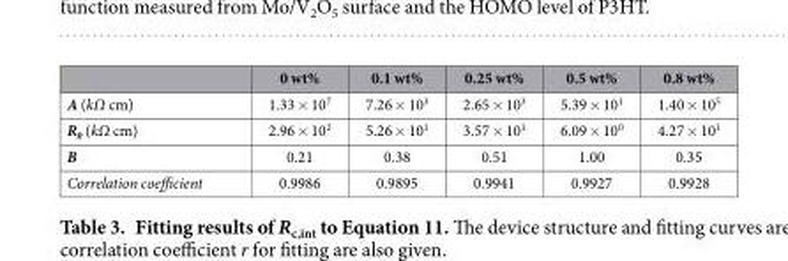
<table><thead><tr><td></td><td>0 wt%</td><td>0.1 wt%</td><td>0.25 wt%</td><td>0.5 wt%</td><td>0.8 wt%</td></tr></thead><tbody><tr><td>A (kΩ cm)</td><td>1.33 × 10<sup>7</sup></td><td>7.26 × 10<sup>3</sup></td><td>2.65 × 10<sup>3</sup></td><td>5.39 × 10<sup>1</sup></td><td>1.40 × 10<sup>5</sup></td></tr><tr><td>R<sub>0</sub> (kΩ cm)</td><td>2.96 × 10<sup>2</sup></td><td>5.26 × 10<sup>1</sup></td><td>3.57 × 10<sup>1</sup></td><td>6.09 × 10<sup>0</sup></td><td>4.27 × 10<sup>1</sup></td></tr><tr><td>B</td><td>0.21</td><td>0.38</td><td>0.51</td><td>1.00</td><td>0.35</td></tr><tr><td>Correlation coefficient</td><td>0.9986</td><td>0.9895</td><td>0.9941</td><td>0.9927</td><td>0.9928</td></tr></tbody></table>